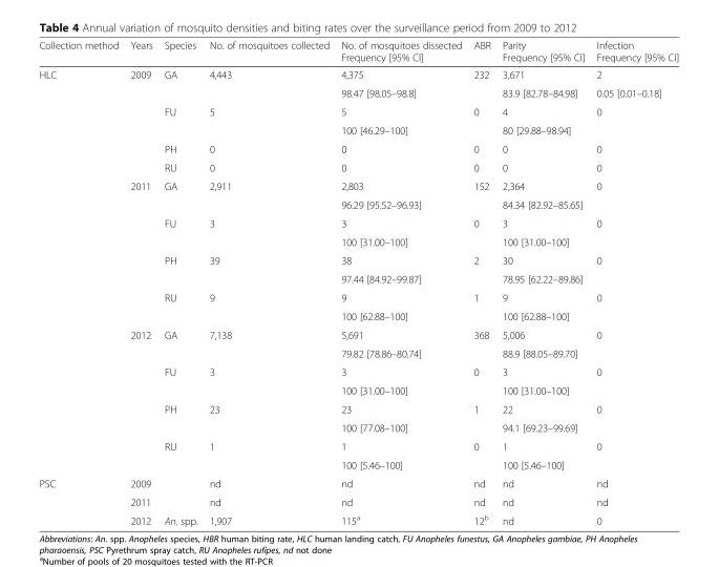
<table><thead><tr><td>Collection method</td><td>Years</td><td>Species</td><td>No. of mosquitoes collected</td><td>No. of mosquitoes dissected Frequency [95% CI]</td><td>ABR</td><td>Parity Frequency [95% CI]</td><td>Infection Frequency [95% CI]</td></tr></thead><tbody><tr><td rowspan="22">HLC</td><td rowspan="6">2009</td><td>GA</td><td>4,443</td><td>4,375</td><td>232</td><td>3,671</td><td>2</td></tr><tr><td></td><td></td><td>98.47 [98.05–98.8]</td><td></td><td>83.9 [82.78–84.98]</td><td>0.05 [0.01–0.18]</td></tr><tr><td>FU</td><td>5</td><td>5</td><td>0</td><td>4</td><td>0</td></tr><tr><td></td><td></td><td>100 [46.29–100]</td><td></td><td>80 [29.88–98.94]</td><td></td></tr><tr><td>PH</td><td>0</td><td>0</td><td>0</td><td>0</td><td>0</td></tr><tr><td>RU</td><td>0</td><td>0</td><td>0</td><td>0</td><td>0</td></tr><tr><td rowspan="8">2011</td><td>GA</td><td>2,911</td><td>2,803</td><td>152</td><td>2,364</td><td>0</td></tr><tr><td></td><td></td><td>96.29 [95.52–96.93]</td><td></td><td>84.34 [82.92–85.65]</td><td></td></tr><tr><td>FU</td><td>3</td><td>3</td><td>0</td><td>3</td><td>0</td></tr><tr><td></td><td></td><td>100 [31.00–100]</td><td></td><td>100 [31.00–100]</td><td></td></tr><tr><td>PH</td><td>39</td><td>38</td><td>2</td><td>30</td><td>0</td></tr><tr><td></td><td></td><td>97.44 [84.92–99.87]</td><td></td><td>78.95 [62.22–89.86]</td><td></td></tr><tr><td>RU</td><td>9</td><td>9</td><td>1</td><td>9</td><td>0</td></tr><tr><td></td><td></td><td>100 [62.88–100]</td><td></td><td>100 [62.88–100]</td><td></td></tr><tr><td rowspan="8">2012</td><td>GA</td><td>7,138</td><td>5,691</td><td>368</td><td>5,006</td><td>0</td></tr><tr><td></td><td></td><td>79.82 [78.86–80.74]</td><td></td><td>88.9 [88.05–89.70]</td><td></td></tr><tr><td>FU</td><td>3</td><td>3</td><td>0</td><td>3</td><td>0</td></tr><tr><td></td><td></td><td>100 [31.00–100]</td><td></td><td>100 [31.00–100]</td><td></td></tr><tr><td>PH</td><td>23</td><td>23</td><td>1</td><td>22</td><td>0</td></tr><tr><td></td><td></td><td>100 [77.08–100]</td><td></td><td>94.1 [69.23–99.69]</td><td></td></tr><tr><td>RU</td><td>1</td><td>1</td><td>0</td><td>1</td><td>0</td></tr><tr><td></td><td></td><td>100 [5.46–100]</td><td></td><td>100 [5.46–100]</td><td></td></tr><tr><td rowspan="3">PSC</td><td>2009</td><td></td><td>nd</td><td>nd</td><td>nd</td><td>nd</td><td>nd</td></tr><tr><td>2011</td><td></td><td>nd</td><td>nd</td><td>nd</td><td>nd</td><td>nd</td></tr><tr><td>2012</td><td>An. spp.</td><td>1,907</td><td>115<sup>a</sup></td><td>12<sup>b</sup></td><td>nd</td><td>0</td></tr></tbody></table>